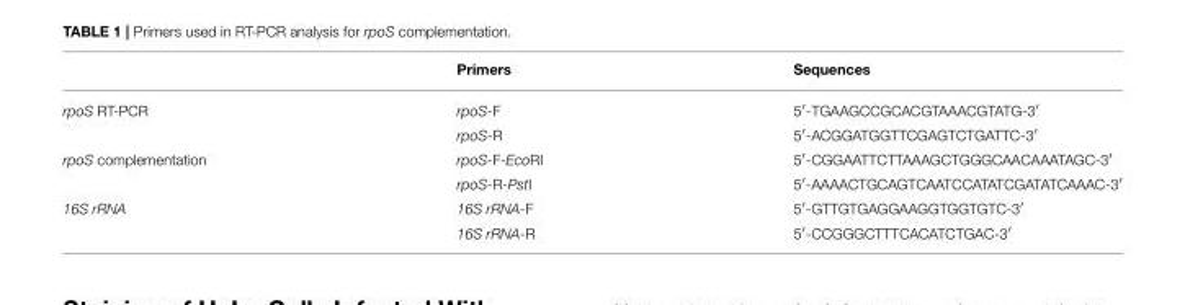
<table><thead><tr><td></td><td>Primers</td><td>Sequences</td></tr></thead><tbody><tr><td rowspan="2">rpoS RT-PCR</td><td>rpoS-F</td><td>5′-TGAAGCCGCACGTAAACGTATG-3′</td></tr><tr><td>rpoS-R</td><td>5′-ACGGATGGTTCGAGTCTGATTC-3′</td></tr><tr><td rowspan="2">rpoS complementation</td><td>rpoS-F-EcoRI</td><td>5′-CGGAATTCTTAAAGCTGGGCAACAAATAGC-3′</td></tr><tr><td>rpoS-R-PstI</td><td>5′-AAAACTGCAGTCAATCCATATCGATATCAAAC-3′</td></tr><tr><td rowspan="2">16S rRNA</td><td>16S rRNA-F</td><td>5′-GTTGTGAGGAAGGTGGTGTC-3′</td></tr><tr><td>16S rRNA-R</td><td>5′-CCGGGCTTTCACATCTGAC-3′</td></tr></tbody></table>